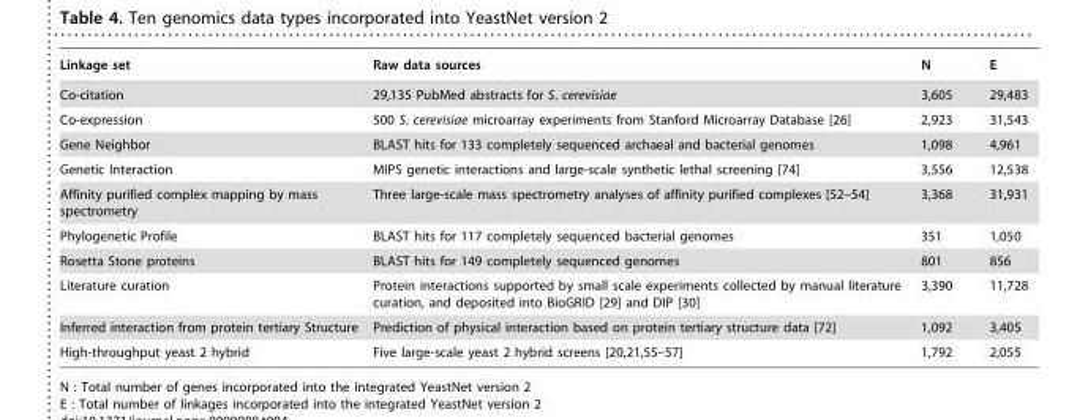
<table><thead><tr><td>Linkage set</td><td>Raw data sources</td><td>N</td><td>E</td></tr></thead><tbody><tr><td>Co-citation</td><td>29,135 PubMed abstracts for S. cerevisiae</td><td>3,605</td><td>29,483</td></tr><tr><td>Co-expression</td><td>500 S. cerevisiae microarray experiments from Stanford Microarray Database [26]</td><td>2,923</td><td>31,543</td></tr><tr><td>Gene Neighbor</td><td>BLAST hits for 133 completely sequenced archaeal and bacterial genomes</td><td>1,098</td><td>4,961</td></tr><tr><td>Genetic Interaction</td><td>MIPS genetic interactions and large-scale synthetic lethal screening [74]</td><td>3,556</td><td>12,538</td></tr><tr><td>Affinity purified complex mapping by mass spectrometry</td><td>Three large-scale mass spectrometry analyses of affinity purified complexes [52–54]</td><td>3,368</td><td>31,931</td></tr><tr><td>Phylogenetic Profile</td><td>BLAST hits for 117 completely sequenced bacterial genomes</td><td>351</td><td>1,050</td></tr><tr><td>Rosetta Stone proteins</td><td>BLAST hits for 149 completely sequenced genomes</td><td>801</td><td>856</td></tr><tr><td>Literature curation</td><td>Protein interactions supported by small scale experiments collected by manual literature curation, and deposited into BioGRID [29] and DIP [30]</td><td>3,390</td><td>11,728</td></tr><tr><td>Inferred interaction from protein tertiary Structure</td><td>Prediction of physical interaction based on protein tertiary structure data [72]</td><td>1,092</td><td>3,405</td></tr><tr><td>High-throughput yeast 2 hybrid</td><td>Five large-scale yeast 2 hybrid screens [20,21,55–57]</td><td>1,792</td><td>2,055</td></tr></tbody></table>